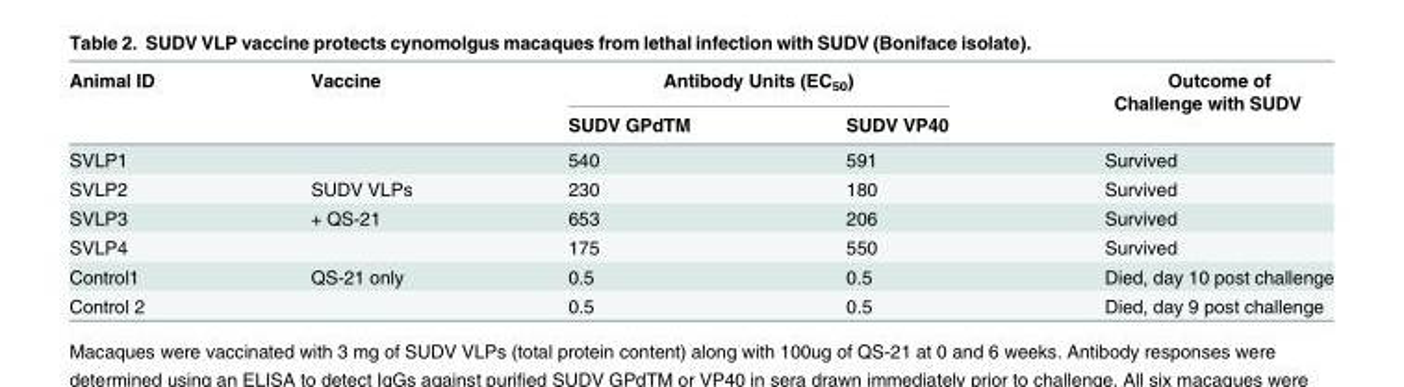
<table><thead><tr><td rowspan="2">Animal ID</td><td rowspan="2">Vaccine</td><td colspan="2">Antibody Units (EC<sub>50</sub>)</td><td rowspan="2">Outcome of Challenge with SUDV</td></tr><tr><td>SUDV GPdTM</td><td>SUDV VP40</td></tr></thead><tbody><tr><td>SVLP1</td><td></td><td>540</td><td>591</td><td>Survived</td></tr><tr><td>SVLP2</td><td>SUDV VLPs</td><td>230</td><td>180</td><td>Survived</td></tr><tr><td>SVLP3</td><td>+ QS-21</td><td>653</td><td>206</td><td>Survived</td></tr><tr><td>SVLP4</td><td></td><td>175</td><td>550</td><td>Survived</td></tr><tr><td>Control1</td><td>QS-21 only</td><td>0.5</td><td>0.5</td><td>Died, day 10 post challenge</td></tr><tr><td>Control 2</td><td></td><td>0.5</td><td>0.5</td><td>Died, day 9 post challenge</td></tr></tbody></table>